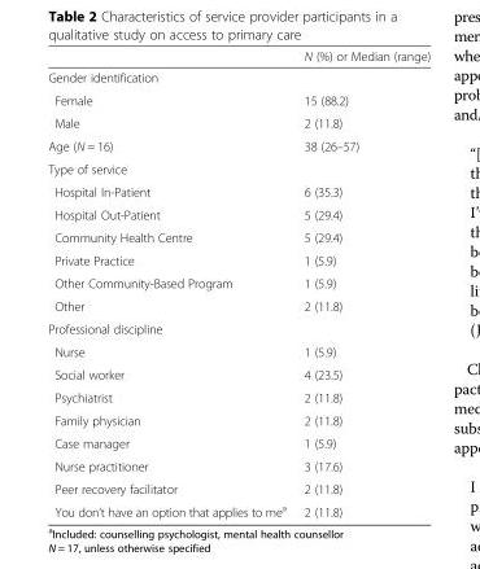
<table><thead><tr><td></td><td>N (%) or Median (range)</td></tr></thead><tbody><tr><td colspan="2">Gender identification</td></tr><tr><td>Female</td><td>15 (88.2)</td></tr><tr><td>Male</td><td>2 (11.8)</td></tr><tr><td>Age (N = 16)</td><td>38 (26–57)</td></tr><tr><td colspan="2">Type of service</td></tr><tr><td>Hospital In-Patient</td><td>6 (35.3)</td></tr><tr><td>Hospital Out-Patient</td><td>5 (29.4)</td></tr><tr><td>Community Health Centre</td><td>5 (29.4)</td></tr><tr><td>Private Practice</td><td>1 (5.9)</td></tr><tr><td>Other Community-Based Program</td><td>1 (5.9)</td></tr><tr><td>Other</td><td>2 (11.8)</td></tr><tr><td colspan="2">Professional discipline</td></tr><tr><td>Nurse</td><td>1 (5.9)</td></tr><tr><td>Social worker</td><td>4 (23.5)</td></tr><tr><td>Psychiatrist</td><td>2 (11.8)</td></tr><tr><td>Family physician</td><td>2 (11.8)</td></tr><tr><td>Case manager</td><td>1 (5.9)</td></tr><tr><td>Nurse practitioner</td><td>3 (17.6)</td></tr><tr><td>Peer recovery facilitator</td><td>2 (11.8)</td></tr><tr><td>You don’t have an option that applies to me<sup>a</sup></td><td>2 (11.8)</td></tr></tbody></table>